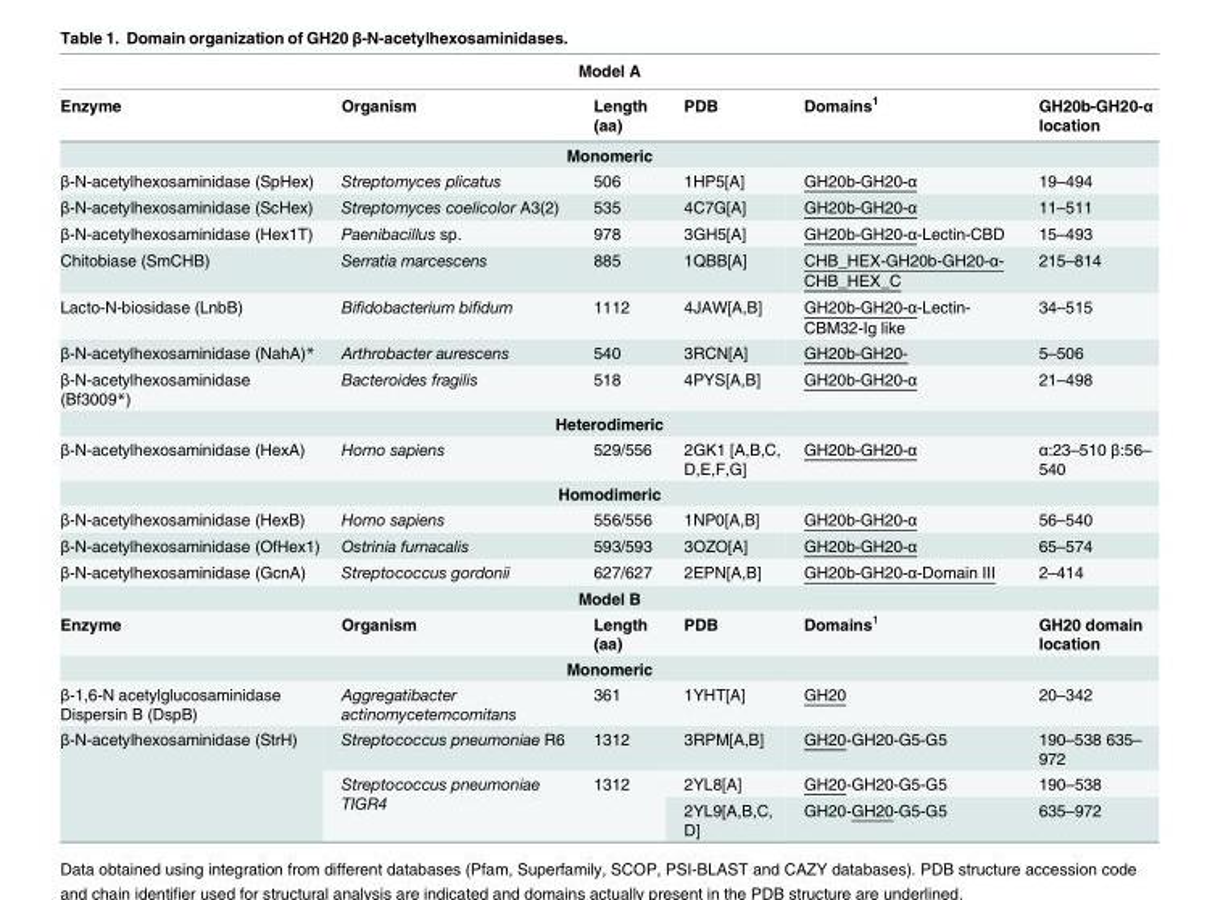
<table><thead><tr><td colspan="6">Model A</td></tr><tr><td>Enzyme</td><td>Organism</td><td>Length (aa)</td><td>PDB</td><td>Domains<sup>1</sup></td><td>GH20b-GH20-α location</td></tr></thead><tbody><tr><td colspan="6">Monomeric</td></tr><tr><td>β-N-acetylhexosaminidase (SpHex)</td><td>Streptomyces plicatus</td><td>506</td><td>1HP5[A]</td><td>GH20b-GH20-α</td><td>19–494</td></tr><tr><td>β-N-acetylhexosaminidase (ScHex)</td><td>Streptomyces coelicolor A3(2)</td><td>535</td><td>4C7G[A]</td><td>GH20b-GH20-α</td><td>11–511</td></tr><tr><td>β-N-acetylhexosaminidase (Hex1T)</td><td>Paenibacillus sp.</td><td>978</td><td>3GH5[A]</td><td>GH20b-GH20-α-Lectin-CBD</td><td>15–493</td></tr><tr><td>Chitobiase (SmCHB)</td><td>Serratia marcescens</td><td>885</td><td>1QBB[A]</td><td>CHB_HEX-GH20b-GH20-α- CHB_HEX_C</td><td>215–814</td></tr><tr><td>Lacto-N-biosidase (LnbB)</td><td>Bifidobacterium bifidum</td><td>1112</td><td>4JAW[A,B]</td><td>GH20b-GH20-α-Lectin- CBM32-Ig like</td><td>34–515</td></tr><tr><td>β-N-acetylhexosaminidase (NahA)*</td><td>Arthrobacter aurescens</td><td>540</td><td>3RCN[A]</td><td>GH20b-GH20-</td><td>5–506</td></tr><tr><td>β-N-acetylhexosaminidase (Bf3009*)</td><td>Bacteroides fragilis</td><td>518</td><td>4PYS[A,B]</td><td>GH20b-GH20-α</td><td>21–498</td></tr><tr><td colspan="6">Heterodimeric</td></tr><tr><td>β-N-acetylhexosaminidase (HexA)</td><td>Homo sapiens</td><td>529/556</td><td>2GK1 [A,B,C, D,E,F,G]</td><td>GH20b-GH20-α</td><td>α:23–510 β:56– 540</td></tr><tr><td colspan="6">Homodimeric</td></tr><tr><td>β-N-acetylhexosaminidase (HexB)</td><td>Homo sapiens</td><td>556/556</td><td>1NP0[A,B]</td><td>GH20b-GH20-α</td><td>56–540</td></tr><tr><td>β-N-acetylhexosaminidase (OfHex1)</td><td>Ostrinia furnacalis</td><td>593/593</td><td>3OZO[A]</td><td>GH20b-GH20-α</td><td>65–574</td></tr><tr><td>β-N-acetylhexosaminidase (GcnA)</td><td>Streptococcus gordonii</td><td>627/627</td><td>2EPN[A,B]</td><td>GH20b-GH20-α-Domain III</td><td>2–414</td></tr><tr><td colspan="6">Model B</td></tr><tr><td>Enzyme</td><td>Organism</td><td>Length (aa)</td><td>PDB</td><td>Domains<sup>1</sup></td><td>GH20 domain location</td></tr><tr><td colspan="6">Monomeric</td></tr><tr><td>β-1,6-N acetylglucosaminidase Dispersin B (DspB)</td><td>Aggregatibacter actinomycetemcomitans</td><td>361</td><td>1YHT[A]</td><td>GH20</td><td>20–342</td></tr><tr><td rowspan="3">β-N-acetylhexosaminidase (StrH)</td><td>Streptococcus pneumoniae R6</td><td>1312</td><td>3RPM[A,B]</td><td>GH20-GH20-G5-G5</td><td>190–538 635– 972</td></tr><tr><td rowspan="2">Streptococcus pneumoniae TIGR4</td><td rowspan="2">1312</td><td>2YL8[A]</td><td>GH20-GH20-G5-G5</td><td>190–538</td></tr><tr><td>2YL9[A,B,C, D]</td><td>GH20-GH20-G5-G5</td><td>635–972</td></tr></tbody></table>